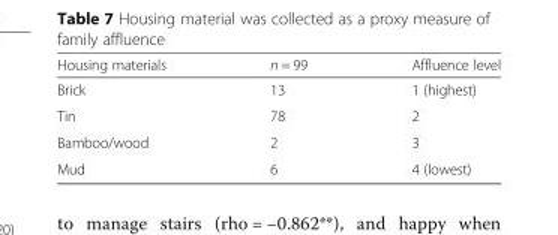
<table><thead><tr><td>Housing materials</td><td>n = 99</td><td>Affluence level</td></tr></thead><tbody><tr><td>Brick</td><td>13</td><td>1 (highest)</td></tr><tr><td>Tin</td><td>78</td><td>2</td></tr><tr><td>Bamboo/wood</td><td>2</td><td>3</td></tr><tr><td>Mud</td><td>6</td><td>4 (lowest)</td></tr></tbody></table>